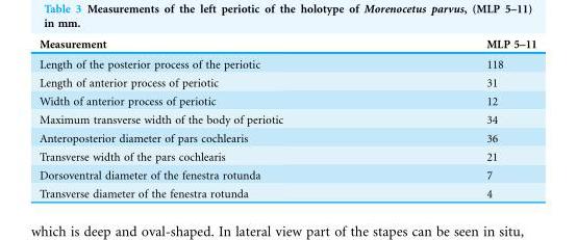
<table><thead><tr><td>Measurement</td><td>MLP 5–11</td></tr></thead><tbody><tr><td>Length of the posterior process of the periotic</td><td>118</td></tr><tr><td>Length of anterior process of periotic</td><td>31</td></tr><tr><td>Width of anterior process of periotic</td><td>12</td></tr><tr><td>Maximum transverse width of the body of periotic</td><td>34</td></tr><tr><td>Anteroposterior diameter of pars cochlearis</td><td>36</td></tr><tr><td>Transverse width of the pars cochlearis</td><td>21</td></tr><tr><td>Dorsoventral diameter of the fenestra rotunda</td><td>7</td></tr><tr><td>Transverse diameter of the fenestra rotunda</td><td>4</td></tr></tbody></table>